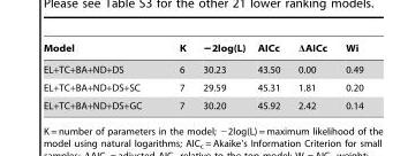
<table><thead><tr><td>Model</td><td>K</td><td>−2log(L)</td><td>AICc</td><td>ΔAICc</td><td>Wi</td></tr></thead><tbody><tr><td>EL+TC+BA+ND+DS</td><td>6</td><td>30.23</td><td>43.50</td><td>0.00</td><td>0.49</td></tr><tr><td>EL+TC+BA+ND+DS+SC</td><td>7</td><td>29.59</td><td>45.31</td><td>1.81</td><td>0.20</td></tr><tr><td>EL+TC+BA+ND+DS+GC</td><td>7</td><td>30.20</td><td>45.92</td><td>2.42</td><td>0.14</td></tr></tbody></table>